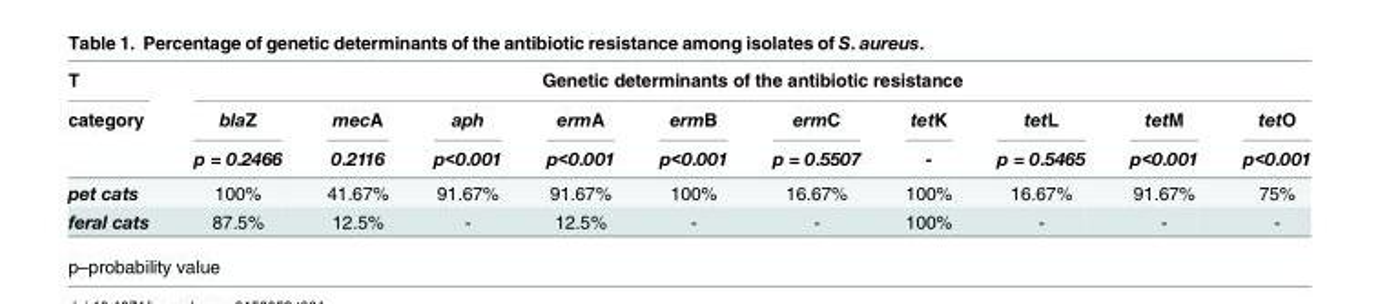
<table><thead><tr><td rowspan="3">T category</td><td colspan="10">Genetic determinants of the antibiotic resistance</td></tr><tr><td rowspan="2">blaZ p = 0.2466</td><td rowspan="2">mecA 0.2116</td><td rowspan="2">aph p&lt;0.001</td><td rowspan="2">ermA p&lt;0.001</td><td rowspan="2">ermB p&lt;0.001</td><td rowspan="2">ermC p = 0.5507</td><td rowspan="2">tetK -</td><td rowspan="2">tetL p = 0.5465</td><td rowspan="2">tetM p&lt;0.001</td><td rowspan="2">tetO p&lt;0.001</td></tr><tr></tr></thead><tbody><tr><td>pet cats</td><td>100%</td><td>41.67%</td><td>91.67%</td><td>91.67%</td><td>100%</td><td>16.67%</td><td>100%</td><td>16.67%</td><td>91.67%</td><td>75%</td></tr><tr><td>feral cats</td><td>87.5%</td><td>12.5%</td><td>-</td><td>12.5%</td><td>-</td><td>-</td><td>100%</td><td>-</td><td>-</td><td>-</td></tr></tbody></table>